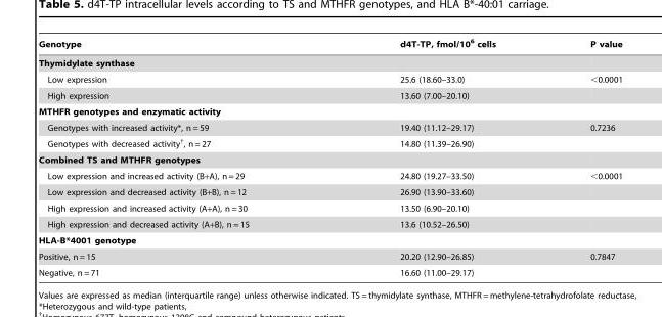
<table><thead><tr><td>Genotype</td><td>d4T-TP, fmol/10<sup>6</sup> cells</td><td>P value</td></tr></thead><tbody><tr><td colspan="3">Thymidylate synthase</td></tr><tr><td>Low expression</td><td>25.6 (18.60–33.0)</td><td>&lt;0.0001</td></tr><tr><td>High expression</td><td>13.60 (7.00–20.10)</td><td></td></tr><tr><td colspan="3">MTHFR genotypes and enzymatic activity</td></tr><tr><td>Genotypes with increased activity*, n = 59</td><td>19.40 (11.12–29.17)</td><td>0.7236</td></tr><tr><td>Genotypes with decreased activity†, n = 27</td><td>14.80 (11.39–26.90)</td><td></td></tr><tr><td colspan="3">Combined TS and MTHFR genotypes</td></tr><tr><td>Low expression and increased activity (B+A), n = 29</td><td>24.80 (19.27–33.50)</td><td>&lt;0.0001</td></tr><tr><td>Low expression and decreased activity (B+B), n = 12</td><td>26.90 (13.90–33.60)</td><td></td></tr><tr><td>High expression and increased activity (A+A), n = 30</td><td>13.50 (6.90–20.10)</td><td></td></tr><tr><td>High expression and decreased activity (A+B), n = 15</td><td>13.6 (10.52–26.50)</td><td></td></tr><tr><td colspan="3">HLA-B*4001 genotype</td></tr><tr><td>Positive, n = 15</td><td>20.20 (12.90–26.85)</td><td>0.7847</td></tr><tr><td>Negative, n = 71</td><td>16.60 (11.00–29.17)</td><td></td></tr></tbody></table>